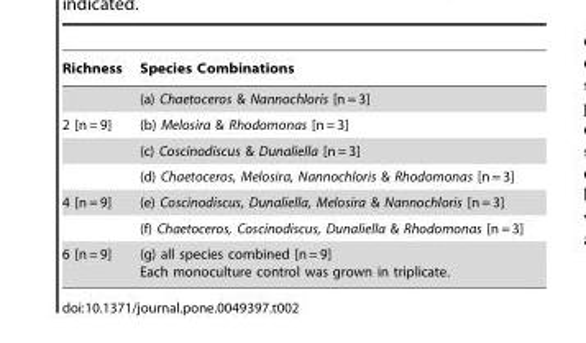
<table><thead><tr><td>Richness</td><td>Species Combinations</td></tr></thead><tbody><tr><td></td><td>(a) Chaetoceros &amp; Nannochloris [n = 3]</td></tr><tr><td rowspan="3">2 [n = 9]</td><td>(b) Melosira &amp; Rhodomonas [n = 3]</td></tr><tr><td>(c) Coscinodiscus &amp; Dunaliella [n = 3]</td></tr><tr><td>(d) Chaetoceros, Melosira, Nannochloris &amp; Rhodomonas [n = 3]</td></tr><tr><td rowspan="2">4 [n = 9]</td><td>(e) Coscinodiscus, Dunaliella, Melosira &amp; Nannochloris [n = 3]</td></tr><tr><td>(f) Chaetoceros, Coscinodiscus, Dunaliella &amp; Rhodomonas [n = 3]</td></tr><tr><td>6 [n = 9]</td><td>(g) all species combined [n = 9] Each monoculture control was grown in triplicate.</td></tr></tbody></table>